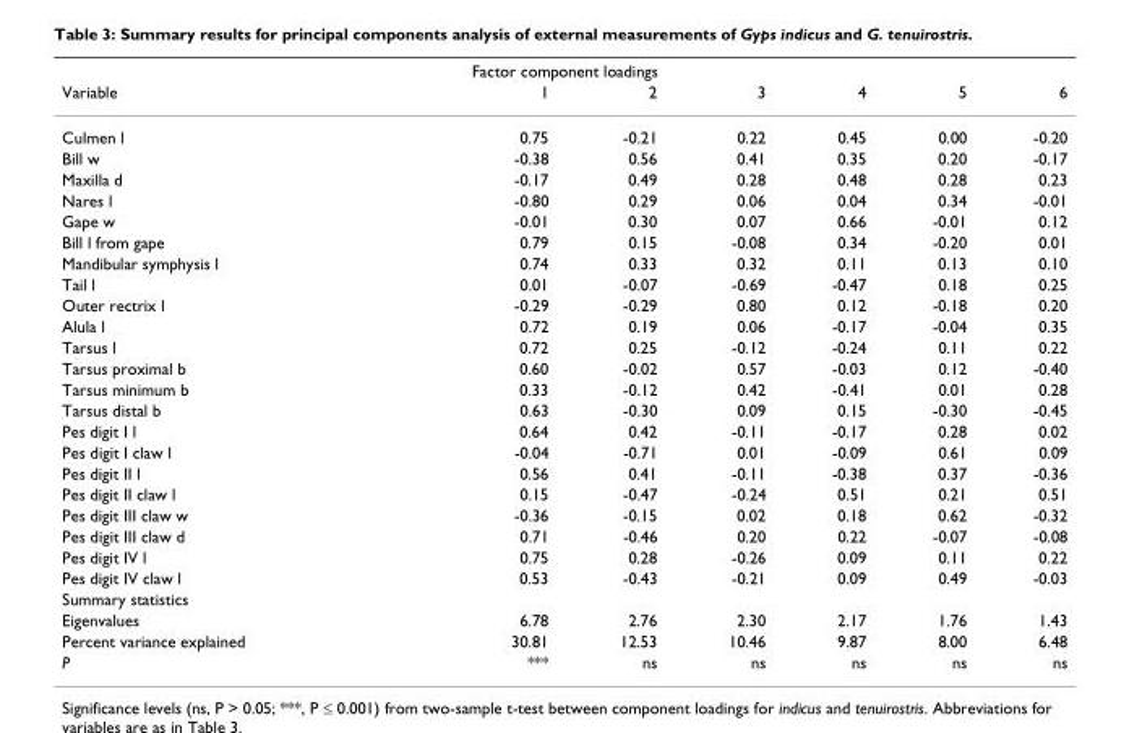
<table><thead><tr><td colspan="7">Factor component loadings</td></tr><tr><td>Variable</td><td>1</td><td>2</td><td>3</td><td>4</td><td>5</td><td>6</td></tr></thead><tbody><tr><td>Culmen l</td><td>0.75</td><td>-0.21</td><td>0.22</td><td>0.45</td><td>0.00</td><td>-0.20</td></tr><tr><td>Bill w</td><td>-0.38</td><td>0.56</td><td>0.41</td><td>0.35</td><td>0.20</td><td>-0.17</td></tr><tr><td>Maxilla d</td><td>-0.17</td><td>0.49</td><td>0.28</td><td>0.48</td><td>0.28</td><td>0.23</td></tr><tr><td>Nares l</td><td>-0.80</td><td>0.29</td><td>0.06</td><td>0.04</td><td>0.34</td><td>-0.01</td></tr><tr><td>Gape w</td><td>-0.01</td><td>0.30</td><td>0.07</td><td>0.66</td><td>-0.01</td><td>0.12</td></tr><tr><td>Bill l from gape</td><td>0.79</td><td>0.15</td><td>-0.08</td><td>0.34</td><td>-0.20</td><td>0.01</td></tr><tr><td>Mandibular symphysis l</td><td>0.74</td><td>0.33</td><td>0.32</td><td>0.11</td><td>0.13</td><td>0.10</td></tr><tr><td>Tail l</td><td>0.01</td><td>-0.07</td><td>-0.69</td><td>-0.47</td><td>0.18</td><td>0.25</td></tr><tr><td>Outer rectrix l</td><td>-0.29</td><td>-0.29</td><td>0.80</td><td>0.12</td><td>-0.18</td><td>0.20</td></tr><tr><td>Alula l</td><td>0.72</td><td>0.19</td><td>0.06</td><td>-0.17</td><td>-0.04</td><td>0.35</td></tr><tr><td>Tarsus l</td><td>0.72</td><td>0.25</td><td>-0.12</td><td>-0.24</td><td>0.11</td><td>0.22</td></tr><tr><td>Tarsus proximal b</td><td>0.60</td><td>-0.02</td><td>0.57</td><td>-0.03</td><td>0.12</td><td>-0.40</td></tr><tr><td>Tarsus minimum b</td><td>0.33</td><td>-0.12</td><td>0.42</td><td>-0.41</td><td>0.01</td><td>0.28</td></tr><tr><td>Tarsus distal b</td><td>0.63</td><td>-0.30</td><td>0.09</td><td>0.15</td><td>-0.30</td><td>-0.45</td></tr><tr><td>Pes digit I l</td><td>0.64</td><td>0.42</td><td>-0.11</td><td>-0.17</td><td>0.28</td><td>0.02</td></tr><tr><td>Pes digit I claw l</td><td>-0.04</td><td>-0.71</td><td>0.01</td><td>-0.09</td><td>0.61</td><td>0.09</td></tr><tr><td>Pes digit II l</td><td>0.56</td><td>0.41</td><td>-0.11</td><td>-0.38</td><td>0.37</td><td>-0.36</td></tr><tr><td>Pes digit II claw l</td><td>0.15</td><td>-0.47</td><td>-0.24</td><td>0.51</td><td>0.21</td><td>0.51</td></tr><tr><td>Pes digit III claw w</td><td>-0.36</td><td>-0.15</td><td>0.02</td><td>0.18</td><td>0.62</td><td>-0.32</td></tr><tr><td>Pes digit III claw d</td><td>0.71</td><td>-0.46</td><td>0.20</td><td>0.22</td><td>-0.07</td><td>-0.08</td></tr><tr><td>Pes digit IV l</td><td>0.75</td><td>0.28</td><td>-0.26</td><td>0.09</td><td>0.11</td><td>0.22</td></tr><tr><td>Pes digit IV claw l</td><td>0.53</td><td>-0.43</td><td>-0.21</td><td>0.09</td><td>0.49</td><td>-0.03</td></tr><tr><td colspan="7">Summary statistics</td></tr><tr><td>Eigenvalues</td><td>6.78</td><td>2.76</td><td>2.30</td><td>2.17</td><td>1.76</td><td>1.43</td></tr><tr><td>Percent variance explained</td><td>30.81</td><td>12.53</td><td>10.46</td><td>9.87</td><td>8.00</td><td>6.48</td></tr><tr><td>P</td><td>***</td><td>ns</td><td>ns</td><td>ns</td><td>ns</td><td>ns</td></tr></tbody></table>